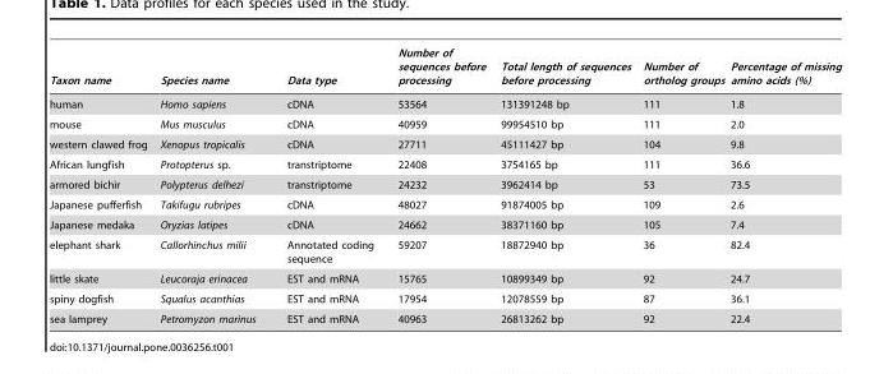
<table><thead><tr><td>Taxon name</td><td>Species name</td><td>Data type</td><td>Number of sequences before processing</td><td>Total length of sequences before processing</td><td>Number of ortholog groups</td><td>Percentage of missing amino acids (%)</td></tr></thead><tbody><tr><td>human</td><td>Homo sapiens</td><td>cDNA</td><td>53564</td><td>131391248 bp</td><td>111</td><td>1.8</td></tr><tr><td>mouse</td><td>Mus musculus</td><td>cDNA</td><td>40959</td><td>99954510 bp</td><td>111</td><td>2.0</td></tr><tr><td>western clawed frog</td><td>Xenopus tropicalis</td><td>cDNA</td><td>27711</td><td>45111427 bp</td><td>104</td><td>9.8</td></tr><tr><td>African lungfish</td><td>Protopterus sp.</td><td>transtriptome</td><td>22408</td><td>3754165 bp</td><td>111</td><td>36.6</td></tr><tr><td>armored bichir</td><td>Polypterus delhezi</td><td>transtriptome</td><td>24232</td><td>3962414 bp</td><td>53</td><td>73.5</td></tr><tr><td>Japanese pufferfish</td><td>Takifugu rubripes</td><td>cDNA</td><td>48027</td><td>91874005 bp</td><td>109</td><td>2.6</td></tr><tr><td>Japanese medaka</td><td>Oryzias latipes</td><td>cDNA</td><td>24662</td><td>38371160 bp</td><td>105</td><td>7.4</td></tr><tr><td>elephant shark</td><td>Callorhinchus milii</td><td>Annotated coding sequence</td><td>59207</td><td>18872940 bp</td><td>36</td><td>82.4</td></tr><tr><td>little skate</td><td>Leucoraja erinacea</td><td>EST and mRNA</td><td>15765</td><td>10899349 bp</td><td>92</td><td>24.7</td></tr><tr><td>spiny dogfish</td><td>Squalus acanthias</td><td>EST and mRNA</td><td>17954</td><td>12078559 bp</td><td>87</td><td>36.1</td></tr><tr><td>sea lamprey</td><td>Petromyzon marinus</td><td>EST and mRNA</td><td>40963</td><td>26813262 bp</td><td>92</td><td>22.4</td></tr></tbody></table>